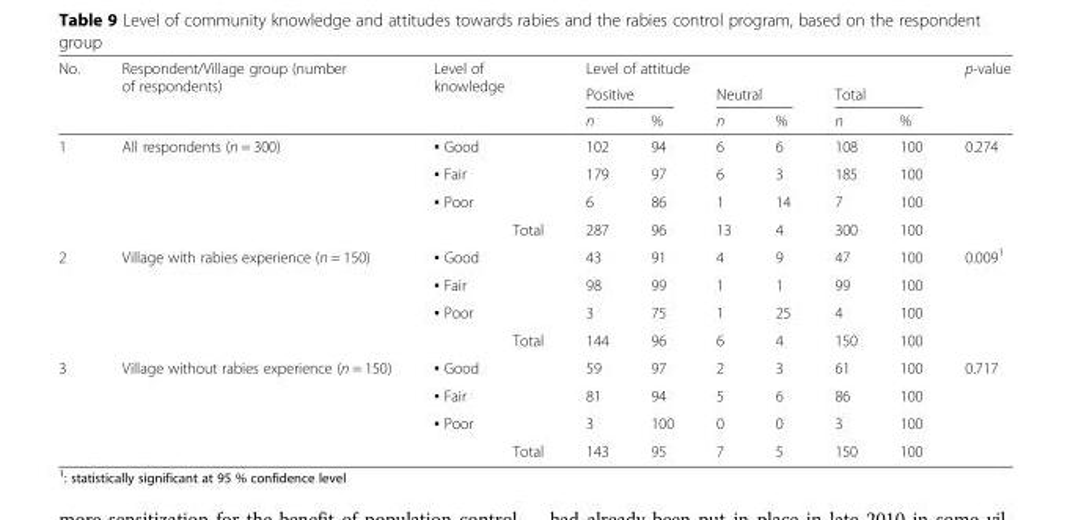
<table><thead><tr><td rowspan="3">No.</td><td rowspan="3">Respondent/Village group (number of respondents)</td><td rowspan="3">Level of knowledge</td><td colspan="6">Level of attitude</td><td rowspan="3">p-value</td></tr><tr><td colspan="2">Positive</td><td colspan="2">Neutral</td><td colspan="2">Total</td></tr><tr><td>n</td><td>%</td><td>n</td><td>%</td><td>n</td><td>%</td></tr></thead><tbody><tr><td rowspan="4">1</td><td rowspan="4">All respondents (n = 300)</td><td>▪ Good</td><td>102</td><td>94</td><td>6</td><td>6</td><td>108</td><td>100</td><td>0.274</td></tr><tr><td>▪ Fair</td><td>179</td><td>97</td><td>6</td><td>3</td><td>185</td><td>100</td><td></td></tr><tr><td>▪ Poor</td><td>6</td><td>86</td><td>1</td><td>14</td><td>7</td><td>100</td><td></td></tr><tr><td>Total</td><td>287</td><td>96</td><td>13</td><td>4</td><td>300</td><td>100</td><td></td></tr><tr><td rowspan="4">2</td><td rowspan="4">Village with rabies experience (n = 150)</td><td>▪ Good</td><td>43</td><td>91</td><td>4</td><td>9</td><td>47</td><td>100</td><td>0.009<sup>1</sup></td></tr><tr><td>▪ Fair</td><td>98</td><td>99</td><td>1</td><td>1</td><td>99</td><td>100</td><td></td></tr><tr><td>▪ Poor</td><td>3</td><td>75</td><td>1</td><td>25</td><td>4</td><td>100</td><td></td></tr><tr><td>Total</td><td>144</td><td>96</td><td>6</td><td>4</td><td>150</td><td>100</td><td></td></tr><tr><td rowspan="4">3</td><td rowspan="4">Village without rabies experience (n = 150)</td><td>▪ Good</td><td>59</td><td>97</td><td>2</td><td>3</td><td>61</td><td>100</td><td>0.717</td></tr><tr><td>▪ Fair</td><td>81</td><td>94</td><td>5</td><td>6</td><td>86</td><td>100</td><td></td></tr><tr><td>▪ Poor</td><td>3</td><td>100</td><td>0</td><td>0</td><td>3</td><td>100</td><td></td></tr><tr><td>Total</td><td>143</td><td>95</td><td>7</td><td>5</td><td>150</td><td>100</td><td></td></tr></tbody></table>